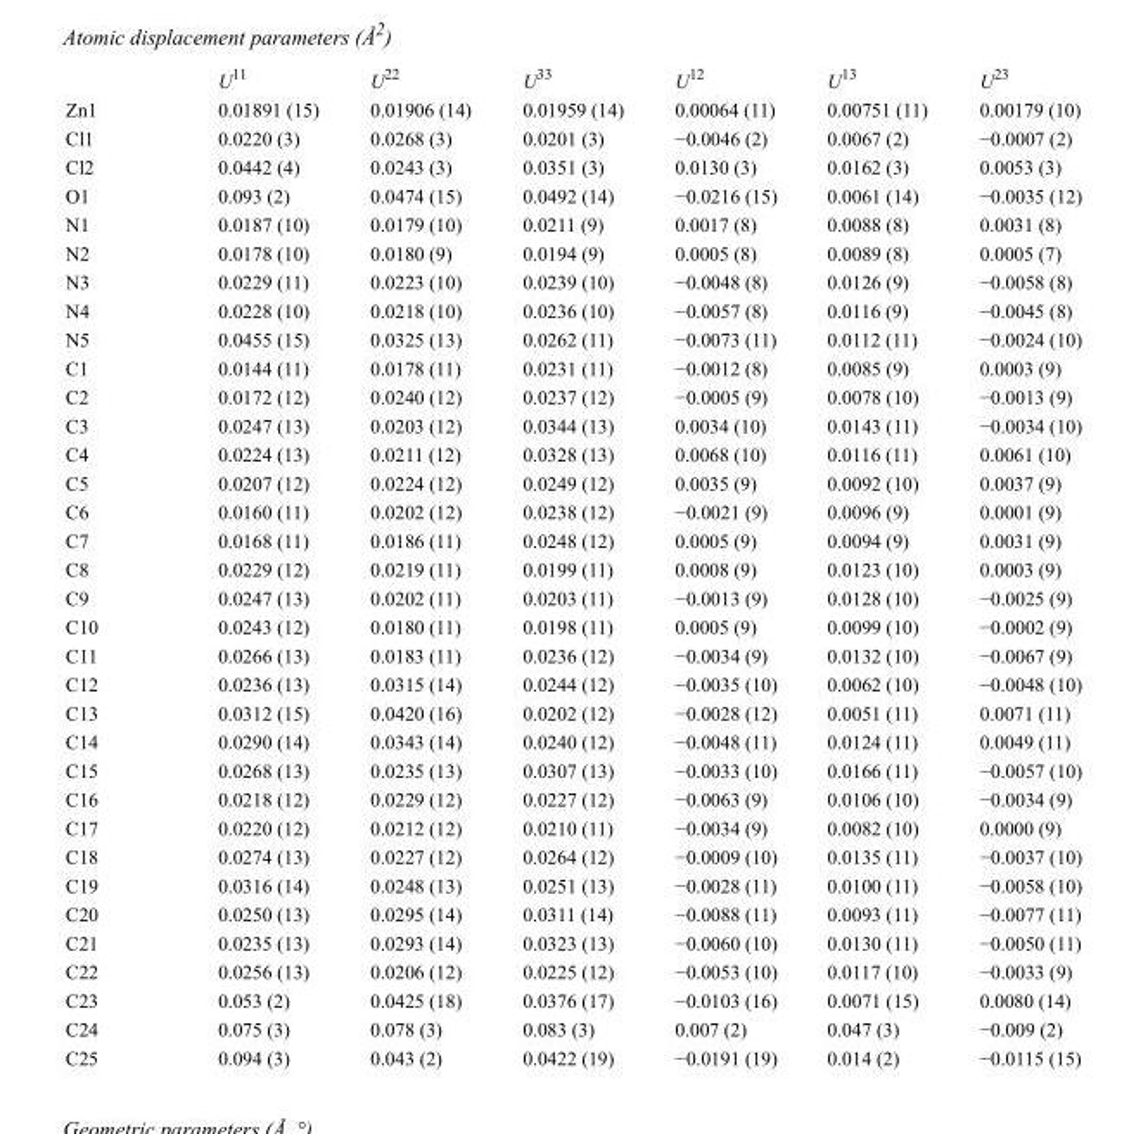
<table><thead><tr><td></td><td>U<sup>11</sup></td><td>U<sup>22</sup></td><td>U<sup>33</sup></td><td>U<sup>12</sup></td><td>U<sup>13</sup></td><td>U<sup>23</sup></td></tr></thead><tbody><tr><td>Zn1</td><td>0.01891 (15)</td><td>0.01906 (14)</td><td>0.01959 (14)</td><td>0.00064 (11)</td><td>0.00751 (11)</td><td>0.00179 (10)</td></tr><tr><td>Cl1</td><td>0.0220 (3)</td><td>0.0268 (3)</td><td>0.0201 (3)</td><td>−0.0046 (2)</td><td>0.0067 (2)</td><td>−0.0007 (2)</td></tr><tr><td>Cl2</td><td>0.0442 (4)</td><td>0.0243 (3)</td><td>0.0351 (3)</td><td>0.0130 (3)</td><td>0.0162 (3)</td><td>0.0053 (3)</td></tr><tr><td>O1</td><td>0.093 (2)</td><td>0.0474 (15)</td><td>0.0492 (14)</td><td>−0.0216 (15)</td><td>0.0061 (14)</td><td>−0.0035 (12)</td></tr><tr><td>N1</td><td>0.0187 (10)</td><td>0.0179 (10)</td><td>0.0211 (9)</td><td>0.0017 (8)</td><td>0.0088 (8)</td><td>0.0031 (8)</td></tr><tr><td>N2</td><td>0.0178 (10)</td><td>0.0180 (9)</td><td>0.0194 (9)</td><td>0.0005 (8)</td><td>0.0089 (8)</td><td>0.0005 (7)</td></tr><tr><td>N3</td><td>0.0229 (11)</td><td>0.0223 (10)</td><td>0.0239 (10)</td><td>−0.0048 (8)</td><td>0.0126 (9)</td><td>−0.0058 (8)</td></tr><tr><td>N4</td><td>0.0228 (10)</td><td>0.0218 (10)</td><td>0.0236 (10)</td><td>−0.0057 (8)</td><td>0.0116 (9)</td><td>−0.0045 (8)</td></tr><tr><td>N5</td><td>0.0455 (15)</td><td>0.0325 (13)</td><td>0.0262 (11)</td><td>−0.0073 (11)</td><td>0.0112 (11)</td><td>−0.0024 (10)</td></tr><tr><td>C1</td><td>0.0144 (11)</td><td>0.0178 (11)</td><td>0.0231 (11)</td><td>−0.0012 (8)</td><td>0.0085 (9)</td><td>0.0003 (9)</td></tr><tr><td>C2</td><td>0.0172 (12)</td><td>0.0240 (12)</td><td>0.0237 (12)</td><td>−0.0005 (9)</td><td>0.0078 (10)</td><td>−0.0013 (9)</td></tr><tr><td>C3</td><td>0.0247 (13)</td><td>0.0203 (12)</td><td>0.0344 (13)</td><td>0.0034 (10)</td><td>0.0143 (11)</td><td>−0.0034 (10)</td></tr><tr><td>C4</td><td>0.0224 (13)</td><td>0.0211 (12)</td><td>0.0328 (13)</td><td>0.0068 (10)</td><td>0.0116 (11)</td><td>0.0061 (10)</td></tr><tr><td>C5</td><td>0.0207 (12)</td><td>0.0224 (12)</td><td>0.0249 (12)</td><td>0.0035 (9)</td><td>0.0092 (10)</td><td>0.0037 (9)</td></tr><tr><td>C6</td><td>0.0160 (11)</td><td>0.0202 (12)</td><td>0.0238 (12)</td><td>−0.0021 (9)</td><td>0.0096 (9)</td><td>0.0001 (9)</td></tr><tr><td>C7</td><td>0.0168 (11)</td><td>0.0186 (11)</td><td>0.0248 (12)</td><td>0.0005 (9)</td><td>0.0094 (9)</td><td>0.0031 (9)</td></tr><tr><td>C8</td><td>0.0229 (12)</td><td>0.0219 (11)</td><td>0.0199 (11)</td><td>0.0008 (9)</td><td>0.0123 (10)</td><td>0.0003 (9)</td></tr><tr><td>C9</td><td>0.0247 (13)</td><td>0.0202 (11)</td><td>0.0203 (11)</td><td>−0.0013 (9)</td><td>0.0128 (10)</td><td>−0.0025 (9)</td></tr><tr><td>C10</td><td>0.0243 (12)</td><td>0.0180 (11)</td><td>0.0198 (11)</td><td>0.0005 (9)</td><td>0.0099 (10)</td><td>−0.0002 (9)</td></tr><tr><td>C11</td><td>0.0266 (13)</td><td>0.0183 (11)</td><td>0.0236 (12)</td><td>−0.0034 (9)</td><td>0.0132 (10)</td><td>−0.0067 (9)</td></tr><tr><td>C12</td><td>0.0236 (13)</td><td>0.0315 (14)</td><td>0.0244 (12)</td><td>−0.0035 (10)</td><td>0.0062 (10)</td><td>−0.0048 (10)</td></tr><tr><td>C13</td><td>0.0312 (15)</td><td>0.0420 (16)</td><td>0.0202 (12)</td><td>−0.0028 (12)</td><td>0.0051 (11)</td><td>0.0071 (11)</td></tr><tr><td>C14</td><td>0.0290 (14)</td><td>0.0343 (14)</td><td>0.0240 (12)</td><td>−0.0048 (11)</td><td>0.0124 (11)</td><td>0.0049 (11)</td></tr><tr><td>C15</td><td>0.0268 (13)</td><td>0.0235 (13)</td><td>0.0307 (13)</td><td>−0.0033 (10)</td><td>0.0166 (11)</td><td>−0.0057 (10)</td></tr><tr><td>C16</td><td>0.0218 (12)</td><td>0.0229 (12)</td><td>0.0227 (12)</td><td>−0.0063 (9)</td><td>0.0106 (10)</td><td>−0.0034 (9)</td></tr><tr><td>C17</td><td>0.0220 (12)</td><td>0.0212 (12)</td><td>0.0210 (11)</td><td>−0.0034 (9)</td><td>0.0082 (10)</td><td>0.0000 (9)</td></tr><tr><td>C18</td><td>0.0274 (13)</td><td>0.0227 (12)</td><td>0.0264 (12)</td><td>−0.0009 (10)</td><td>0.0135 (11)</td><td>−0.0037 (10)</td></tr><tr><td>C19</td><td>0.0316 (14)</td><td>0.0248 (13)</td><td>0.0251 (13)</td><td>−0.0028 (11)</td><td>0.0100 (11)</td><td>−0.0058 (10)</td></tr><tr><td>C20</td><td>0.0250 (13)</td><td>0.0295 (14)</td><td>0.0311 (14)</td><td>−0.0088 (11)</td><td>0.0093 (11)</td><td>−0.0077 (11)</td></tr><tr><td>C21</td><td>0.0235 (13)</td><td>0.0293 (14)</td><td>0.0323 (13)</td><td>−0.0060 (10)</td><td>0.0130 (11)</td><td>−0.0050 (11)</td></tr><tr><td>C22</td><td>0.0256 (13)</td><td>0.0206 (12)</td><td>0.0225 (12)</td><td>−0.0053 (10)</td><td>0.0117 (10)</td><td>−0.0033 (9)</td></tr><tr><td>C23</td><td>0.053 (2)</td><td>0.0425 (18)</td><td>0.0376 (17)</td><td>−0.0103 (16)</td><td>0.0071 (15)</td><td>0.0080 (14)</td></tr><tr><td>C24</td><td>0.075 (3)</td><td>0.078 (3)</td><td>0.083 (3)</td><td>0.007 (2)</td><td>0.047 (3)</td><td>−0.009 (2)</td></tr><tr><td>C25</td><td>0.094 (3)</td><td>0.043 (2)</td><td>0.0422 (19)</td><td>−0.0191 (19)</td><td>0.014 (2)</td><td>−0.0115 (15)</td></tr></tbody></table>